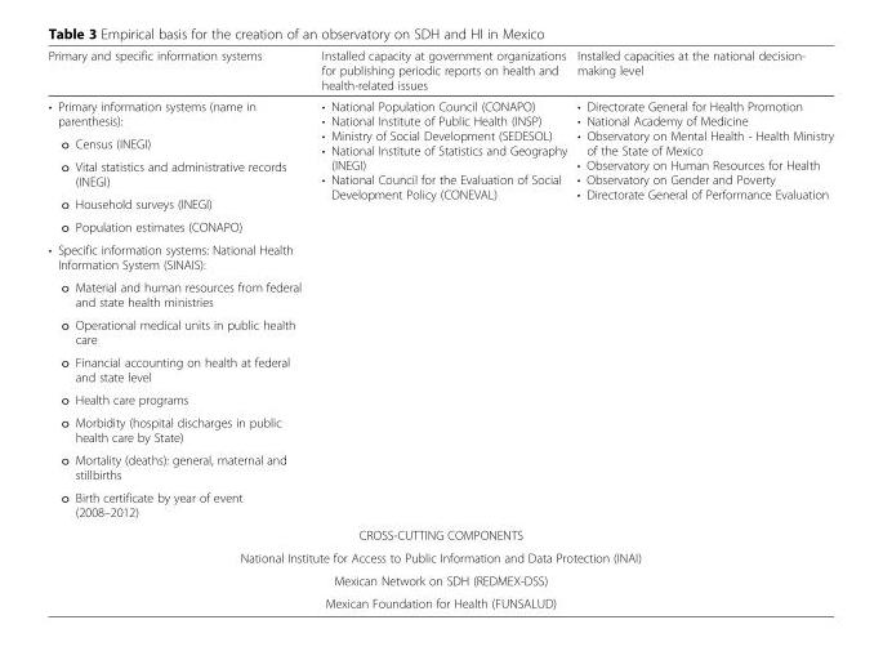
<table><thead><tr><td>Primary and specific information systems</td><td>Installed capacity at government organizations for publishing periodic reports on health and health-related issues</td><td>Installed capacities at the national decision- making level</td></tr></thead><tbody><tr><td>• Primary information systems (name in parenthesis):</td><td rowspan="13">• National Population Council (CONAPO) • National Institute of Public Health (INSP) • Ministry of Social Development (SEDESOL) • National Institute of Statistics and Geography (INEGI) • National Council for the Evaluation of Social Development Policy (CONEVAL)</td><td rowspan="13">• Directorate General for Health Promotion • National Academy of Medicine • Observatory on Mental Health - Health Ministry of the State of Mexico • Observatory on Human Resources for Health • Observatory on Gender and Poverty • Directorate General of Performance Evaluation</td></tr><tr><td>o Census (INEGI)</td></tr><tr><td>o Vital statistics and administrative records (INEGI)</td></tr><tr><td>o Household surveys (INEGI)</td></tr><tr><td>o Population estimates (CONAPO)</td></tr><tr><td>• Specific information systems: National Health Information System (SINAIS):</td></tr><tr><td>o Material and human resources from federal and state health ministries</td></tr><tr><td>o Operational medical units in public health care</td></tr><tr><td>o Financial accounting on health at federal and state level</td></tr><tr><td>o Health care programs</td></tr><tr><td>o Morbidity (hospital discharges in public health care by State)</td></tr><tr><td>o Mortality (deaths): general, maternal and stillbirths</td></tr><tr><td>o Birth certificate by year of event (2008–2012)</td></tr><tr><td colspan="3">CROSS-CUTTING COMPONENTS</td></tr><tr><td colspan="3">National Institute for Access to Public Information and Data Protection (INAI)</td></tr><tr><td colspan="3">Mexican Network on SDH (REDMEX-DSS)</td></tr><tr><td colspan="3">Mexican Foundation for Health (FUNSALUD)</td></tr></tbody></table>